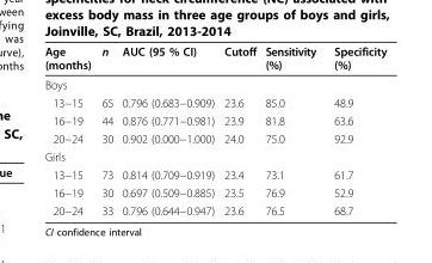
<table><thead><tr><td>Age (months)</td><td>n</td><td>AUC (95 % CI)</td><td>Cutoff</td><td>Sensitivity (%)</td><td>Specificity (%)</td></tr></thead><tbody><tr><td colspan="6">Boys</td></tr><tr><td>13−15</td><td>65</td><td>0.796 (0.683−0.909)</td><td>23.6</td><td>85.0</td><td>48.9</td></tr><tr><td>16−19</td><td>44</td><td>0.876 (0.771−0.981)</td><td>23.9</td><td>81.8</td><td>63.6</td></tr><tr><td>20−24</td><td>30</td><td>0.902 (0.000−1.000)</td><td>24.0</td><td>75.0</td><td>92.9</td></tr><tr><td colspan="6">Girls</td></tr><tr><td>13−15</td><td>73</td><td>0.814 (0.709−0.919)</td><td>23.4</td><td>73.1</td><td>61.7</td></tr><tr><td>16−19</td><td>30</td><td>0.697 (0.509−0.885)</td><td>23.5</td><td>76.9</td><td>52.9</td></tr><tr><td>20−24</td><td>33</td><td>0.796 (0.644−0.947)</td><td>23.6</td><td>76.5</td><td>68.7</td></tr></tbody></table>